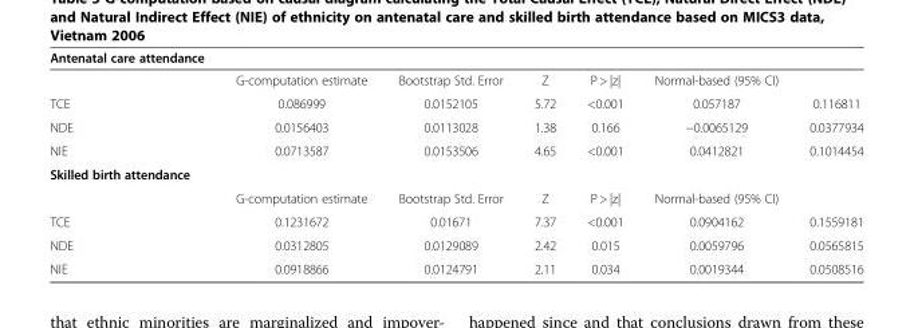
<table><thead><tr><td>Antenatal care attendance</td><td></td><td></td><td></td><td></td><td></td><td></td></tr></thead><tbody><tr><td></td><td>G-computation estimate</td><td>Bootstrap Std. Error</td><td>Z</td><td>P &gt; |z|</td><td>Normal-based (95% CI)</td><td></td></tr><tr><td>TCE</td><td>0.086999</td><td>0.0152105</td><td>5.72</td><td>&lt;0.001</td><td>0.057187</td><td>0.116811</td></tr><tr><td>NDE</td><td>0.0156403</td><td>0.0113028</td><td>1.38</td><td>0.166</td><td>−0.0065129</td><td>0.0377934</td></tr><tr><td>NIE</td><td>0.0713587</td><td>0.0153506</td><td>4.65</td><td>&lt;0.001</td><td>0.0412821</td><td>0.1014454</td></tr><tr><td colspan="7">Skilled birth attendance</td></tr><tr><td></td><td>G-computation estimate</td><td>Bootstrap Std. Error</td><td>Z</td><td>P &gt; |z|</td><td>Normal-based (95% CI)</td><td></td></tr><tr><td>TCE</td><td>0.1231672</td><td>0.01671</td><td>7.37</td><td>&lt;0.001</td><td>0.0904162</td><td>0.1559181</td></tr><tr><td>NDE</td><td>0.0312805</td><td>0.0129089</td><td>2.42</td><td>0.015</td><td>0.0059796</td><td>0.0565815</td></tr><tr><td>NIE</td><td>0.0918866</td><td>0.0124791</td><td>2.11</td><td>0.034</td><td>0.0019344</td><td>0.0508516</td></tr></tbody></table>